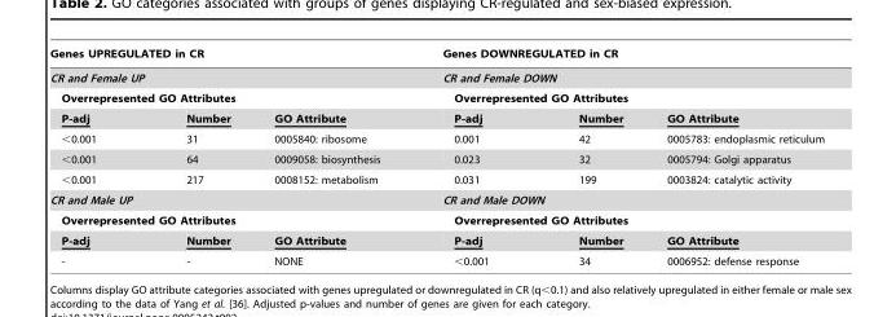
<table><thead><tr><td rowspan="3" colspan="3">Genes UPREGULATED in CR CR and Female UP Overrepresented GO Attributes</td><td rowspan="3" colspan="3">Genes DOWNREGULATED in CR CR and Female DOWN Overrepresented GO Attributes</td></tr><tr></tr><tr></tr><tr><td>P-adj</td><td>Number</td><td>GO Attribute</td><td>P-adj</td><td>Number</td><td>GO Attribute</td></tr></thead><tbody><tr><td>&lt;0.001</td><td>31</td><td>0005840: ribosome</td><td>0.001</td><td>42</td><td>0005783: endoplasmic reticulum</td></tr><tr><td>&lt;0.001</td><td>64</td><td>0009058: biosynthesis</td><td>0.023</td><td>32</td><td>0005794: Golgi apparatus</td></tr><tr><td>&lt;0.001</td><td>217</td><td>0008152: metabolism</td><td>0.031</td><td>199</td><td>0003824: catalytic activity</td></tr><tr><td colspan="3">CR and Male UP</td><td colspan="3">CR and Male DOWN</td></tr><tr><td colspan="3">Overrepresented GO Attributes</td><td colspan="3">Overrepresented GO Attributes</td></tr><tr><td>P-adj</td><td>Number</td><td>GO Attribute</td><td>P-adj</td><td>Number</td><td>GO Attribute</td></tr><tr><td>-</td><td>-</td><td>NONE</td><td>&lt;0.001</td><td>34</td><td>0006952: defense response</td></tr></tbody></table>